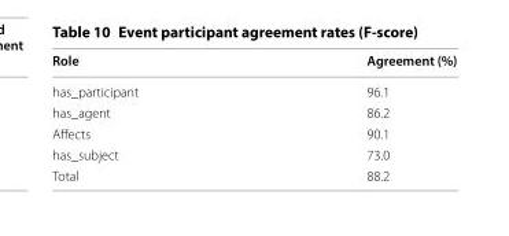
<table><thead><tr><td>Role</td><td>Agreement (%)</td></tr></thead><tbody><tr><td>has_participant</td><td>96.1</td></tr><tr><td>has_agent</td><td>86.2</td></tr><tr><td>Affects</td><td>90.1</td></tr><tr><td>has_subject</td><td>73.0</td></tr><tr><td>Total</td><td>88.2</td></tr></tbody></table>